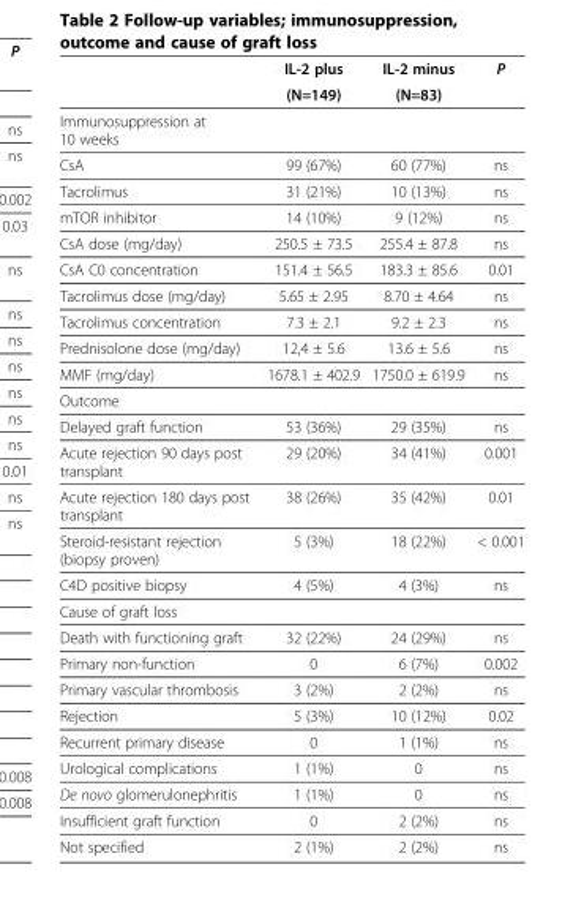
<table><thead><tr><td rowspan="2"></td><td rowspan="2">IL-2 plus (N=149)</td><td rowspan="2">IL-2 minus (N=83)</td><td rowspan="2">P</td></tr><tr></tr></thead><tbody><tr><td colspan="4">Immunosuppression at 10 weeks</td></tr><tr><td>CsA</td><td>99 (67%)</td><td>60 (77%)</td><td>ns</td></tr><tr><td>Tacrolimus</td><td>31 (21%)</td><td>10 (13%)</td><td>ns</td></tr><tr><td>mTOR inhibitor</td><td>14 (10%)</td><td>9 (12%)</td><td>ns</td></tr><tr><td>CsA dose (mg/day)</td><td>250.5 ± 73.5</td><td>255.4 ± 87.8</td><td>ns</td></tr><tr><td>CsA C0 concentration</td><td>151.4 ± 56.5</td><td>183.3 ± 85.6</td><td>0.01</td></tr><tr><td>Tacrolimus dose (mg/day)</td><td>5.65 ± 2.95</td><td>8.70 ± 4.64</td><td>ns</td></tr><tr><td>Tacrolimus concentration</td><td>7.3 ± 2.1</td><td>9.2 ± 2.3</td><td>ns</td></tr><tr><td>Prednisolone dose (mg/day)</td><td>12,4 ± 5.6</td><td>13.6 ± 5.6</td><td>ns</td></tr><tr><td>MMF (mg/day)</td><td>1678.1 ± 402.9</td><td>1750.0 ± 619.9</td><td>ns</td></tr><tr><td colspan="4">Outcome</td></tr><tr><td>Delayed graft function</td><td>53 (36%)</td><td>29 (35%)</td><td>ns</td></tr><tr><td>Acute rejection 90 days post transplant</td><td>29 (20%)</td><td>34 (41%)</td><td>0.001</td></tr><tr><td>Acute rejection 180 days post transplant</td><td>38 (26%)</td><td>35 (42%)</td><td>0.01</td></tr><tr><td>Steroid-resistant rejection (biopsy proven)</td><td>5 (3%)</td><td>18 (22%)</td><td>&lt; 0.001</td></tr><tr><td>C4D positive biopsy</td><td>4 (5%)</td><td>4 (3%)</td><td>ns</td></tr><tr><td colspan="4">Cause of graft loss</td></tr><tr><td>Death with functioning graft</td><td>32 (22%)</td><td>24 (29%)</td><td>ns</td></tr><tr><td>Primary non-function</td><td>0</td><td>6 (7%)</td><td>0.002</td></tr><tr><td>Primary vascular thrombosis</td><td>3 (2%)</td><td>2 (2%)</td><td>ns</td></tr><tr><td>Rejection</td><td>5 (3%)</td><td>10 (12%)</td><td>0.02</td></tr><tr><td>Recurrent primary disease</td><td>0</td><td>1 (1%)</td><td>ns</td></tr><tr><td>Urological complications</td><td>1 (1%)</td><td>0</td><td>ns</td></tr><tr><td>De novo glomerulonephritis</td><td>1 (1%)</td><td>0</td><td>ns</td></tr><tr><td>Insufficient graft function</td><td>0</td><td>2 (2%)</td><td>ns</td></tr><tr><td>Not specified</td><td>2 (1%)</td><td>2 (2%)</td><td>ns</td></tr></tbody></table>